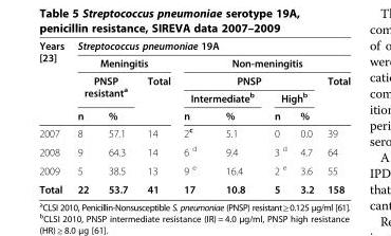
<table><thead><tr><td rowspan="5">Years [23]</td><td colspan="8">Streptococcus pneumoniae 19A</td></tr><tr><td colspan="3">Meningitis</td><td colspan="5">Non-meningitis</td></tr><tr><td rowspan="2" colspan="2">PNSP resistant<sup>a</sup></td><td rowspan="3">Total</td><td colspan="4">PNSP</td><td rowspan="3">Total</td></tr><tr><td colspan="2">Intermediate<sup>b</sup></td><td colspan="2">High<sup>b</sup></td></tr><tr><td>n</td><td>%</td><td>n</td><td>%</td><td>n</td><td>%</td></tr></thead><tbody><tr><td>2007</td><td>8</td><td>57.1</td><td>14</td><td>2<sup>c</sup></td><td>5.1</td><td>0</td><td>0.0</td><td>39</td></tr><tr><td>2008</td><td>9</td><td>64.3</td><td>14</td><td>6 <sup>d</sup></td><td>9.4</td><td>3 <sup>d</sup></td><td>4.7</td><td>64</td></tr><tr><td>2009</td><td>5</td><td>38.5</td><td>13</td><td>9 <sup>e</sup></td><td>16.4</td><td>2 <sup>e</sup></td><td>3.6</td><td>55</td></tr><tr><td>Total</td><td>22</td><td>53.7</td><td>41</td><td>17</td><td>10.8</td><td>5</td><td>3.2</td><td>158</td></tr></tbody></table>